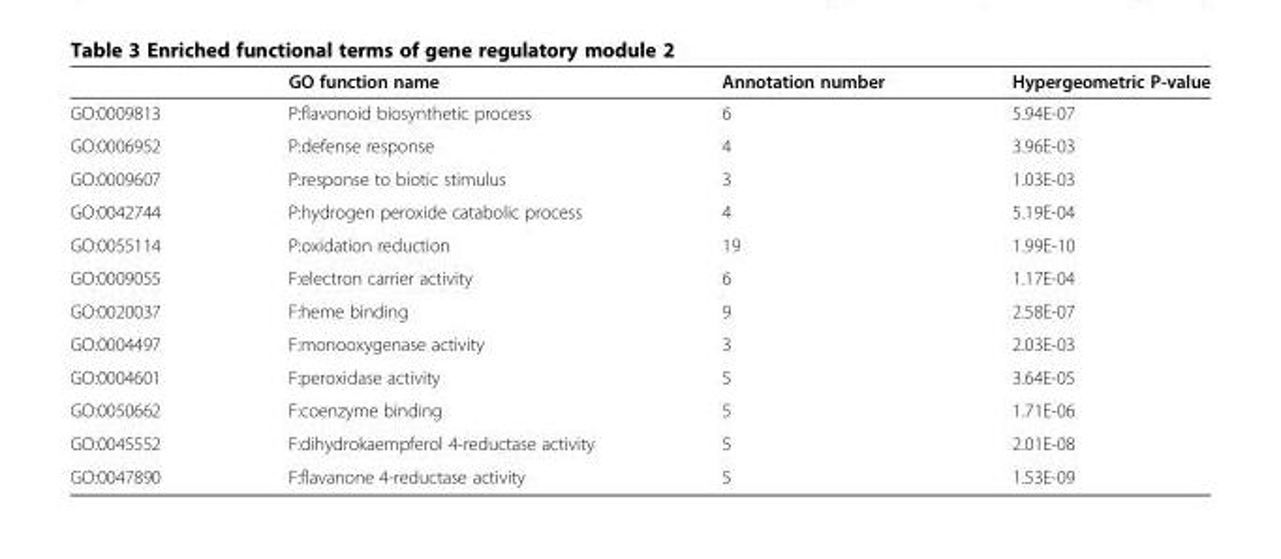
<table><thead><tr><td></td><td>GO function name</td><td>Annotation number</td><td>Hypergeometric P-value</td></tr></thead><tbody><tr><td>GO:0009813</td><td>P:flavonoid biosynthetic process</td><td>6</td><td>5.94E-07</td></tr><tr><td>GO:0006952</td><td>P:defense response</td><td>4</td><td>3.96E-03</td></tr><tr><td>GO:0009607</td><td>P:response to biotic stimulus</td><td>3</td><td>1.03E-03</td></tr><tr><td>GO:0042744</td><td>P:hydrogen peroxide catabolic process</td><td>4</td><td>5.19E-04</td></tr><tr><td>GO:0055114</td><td>P:oxidation reduction</td><td>19</td><td>1.99E-10</td></tr><tr><td>GO:0009055</td><td>F:electron carrier activity</td><td>6</td><td>1.17E-04</td></tr><tr><td>GO:0020037</td><td>F:heme binding</td><td>9</td><td>2.58E-07</td></tr><tr><td>GO:0004497</td><td>F:monooxygenase activity</td><td>3</td><td>2.03E-03</td></tr><tr><td>GO:0004601</td><td>F:peroxidase activity</td><td>5</td><td>3.64E-05</td></tr><tr><td>GO:0050662</td><td>F:coenzyme binding</td><td>5</td><td>1.71E-06</td></tr><tr><td>GO:0045552</td><td>F:dihydrokaempferol 4-reductase activity</td><td>5</td><td>2.01E-08</td></tr><tr><td>GO:0047890</td><td>F:flavanone 4-reductase activity</td><td>5</td><td>1.53E-09</td></tr></tbody></table>